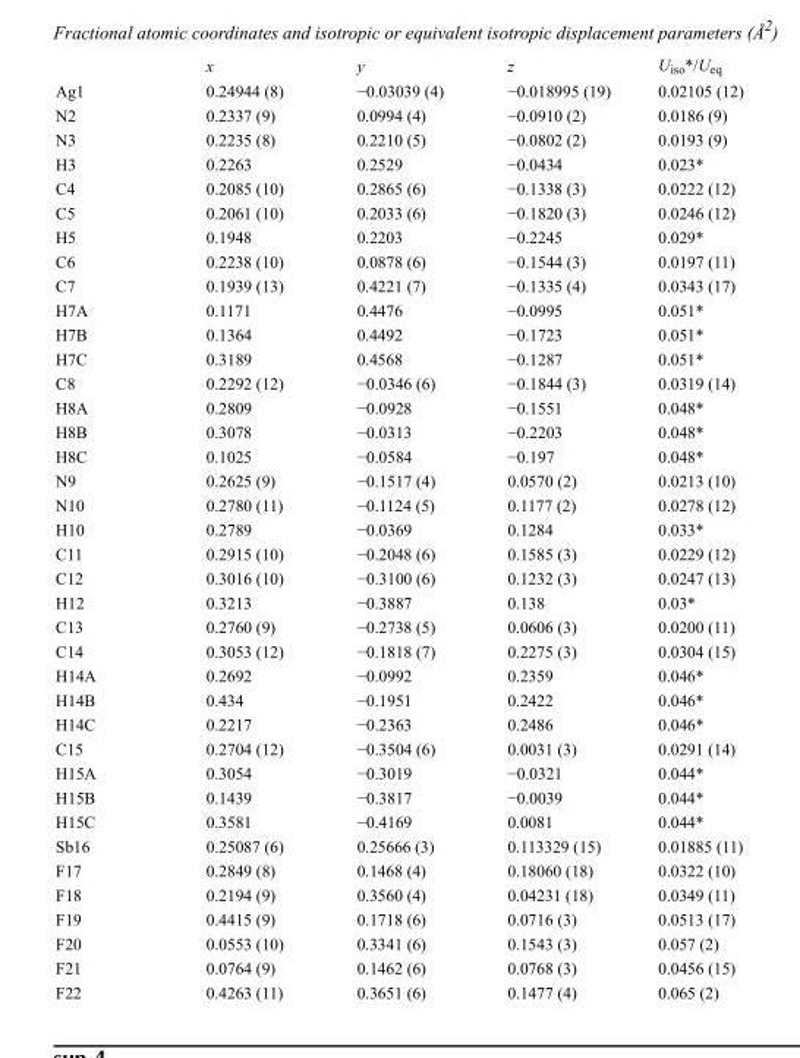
<table><thead><tr><td></td><td>x</td><td>y</td><td>z</td><td>U<sub>iso</sub>*/U<sub>eq</sub></td></tr></thead><tbody><tr><td>Ag1</td><td>0.24944 (8)</td><td>−0.03039 (4)</td><td>−0.018995 (19)</td><td>0.02105 (12)</td></tr><tr><td>N2</td><td>0.2337 (9)</td><td>0.0994 (4)</td><td>−0.0910 (2)</td><td>0.0186 (9)</td></tr><tr><td>N3</td><td>0.2235 (8)</td><td>0.2210 (5)</td><td>−0.0802 (2)</td><td>0.0193 (9)</td></tr><tr><td>H3</td><td>0.2263</td><td>0.2529</td><td>−0.0434</td><td>0.023*</td></tr><tr><td>C4</td><td>0.2085 (10)</td><td>0.2865 (6)</td><td>−0.1338 (3)</td><td>0.0222 (12)</td></tr><tr><td>C5</td><td>0.2061 (10)</td><td>0.2033 (6)</td><td>−0.1820 (3)</td><td>0.0246 (12)</td></tr><tr><td>H5</td><td>0.1948</td><td>0.2203</td><td>−0.2245</td><td>0.029*</td></tr><tr><td>C6</td><td>0.2238 (10)</td><td>0.0878 (6)</td><td>−0.1544 (3)</td><td>0.0197 (11)</td></tr><tr><td>C7</td><td>0.1939 (13)</td><td>0.4221 (7)</td><td>−0.1335 (4)</td><td>0.0343 (17)</td></tr><tr><td>H7A</td><td>0.1171</td><td>0.4476</td><td>−0.0995</td><td>0.051*</td></tr><tr><td>H7B</td><td>0.1364</td><td>0.4492</td><td>−0.1723</td><td>0.051*</td></tr><tr><td>H7C</td><td>0.3189</td><td>0.4568</td><td>−0.1287</td><td>0.051*</td></tr><tr><td>C8</td><td>0.2292 (12)</td><td>−0.0346 (6)</td><td>−0.1844 (3)</td><td>0.0319 (14)</td></tr><tr><td>H8A</td><td>0.2809</td><td>−0.0928</td><td>−0.1551</td><td>0.048*</td></tr><tr><td>H8B</td><td>0.3078</td><td>−0.0313</td><td>−0.2203</td><td>0.048*</td></tr><tr><td>H8C</td><td>0.1025</td><td>−0.0584</td><td>−0.197</td><td>0.048*</td></tr><tr><td>N9</td><td>0.2625 (9)</td><td>−0.1517 (4)</td><td>0.0570 (2)</td><td>0.0213 (10)</td></tr><tr><td>N10</td><td>0.2780 (11)</td><td>−0.1124 (5)</td><td>0.1177 (2)</td><td>0.0278 (12)</td></tr><tr><td>H10</td><td>0.2789</td><td>−0.0369</td><td>0.1284</td><td>0.033*</td></tr><tr><td>C11</td><td>0.2915 (10)</td><td>−0.2048 (6)</td><td>0.1585 (3)</td><td>0.0229 (12)</td></tr><tr><td>C12</td><td>0.3016 (10)</td><td>−0.3100 (6)</td><td>0.1232 (3)</td><td>0.0247 (13)</td></tr><tr><td>H12</td><td>0.3213</td><td>−0.3887</td><td>0.138</td><td>0.03*</td></tr><tr><td>C13</td><td>0.2760 (9)</td><td>−0.2738 (5)</td><td>0.0606 (3)</td><td>0.0200 (11)</td></tr><tr><td>C14</td><td>0.3053 (12)</td><td>−0.1818 (7)</td><td>0.2275 (3)</td><td>0.0304 (15)</td></tr><tr><td>H14A</td><td>0.2692</td><td>−0.0992</td><td>0.2359</td><td>0.046*</td></tr><tr><td>H14B</td><td>0.434</td><td>−0.1951</td><td>0.2422</td><td>0.046*</td></tr><tr><td>H14C</td><td>0.2217</td><td>−0.2363</td><td>0.2486</td><td>0.046*</td></tr><tr><td>C15</td><td>0.2704 (12)</td><td>−0.3504 (6)</td><td>0.0031 (3)</td><td>0.0291 (14)</td></tr><tr><td>H15A</td><td>0.3054</td><td>−0.3019</td><td>−0.0321</td><td>0.044*</td></tr><tr><td>H15B</td><td>0.1439</td><td>−0.3817</td><td>−0.0039</td><td>0.044*</td></tr><tr><td>H15C</td><td>0.3581</td><td>−0.4169</td><td>0.0081</td><td>0.044*</td></tr><tr><td>Sb16</td><td>0.25087 (6)</td><td>0.25666 (3)</td><td>0.113329 (15)</td><td>0.01885 (11)</td></tr><tr><td>F17</td><td>0.2849 (8)</td><td>0.1468 (4)</td><td>0.18060 (18)</td><td>0.0322 (10)</td></tr><tr><td>F18</td><td>0.2194 (9)</td><td>0.3560 (4)</td><td>0.04231 (18)</td><td>0.0349 (11)</td></tr><tr><td>F19</td><td>0.4415 (9)</td><td>0.1718 (6)</td><td>0.0716 (3)</td><td>0.0513 (17)</td></tr><tr><td>F20</td><td>0.0553 (10)</td><td>0.3341 (6)</td><td>0.1543 (3)</td><td>0.057 (2)</td></tr><tr><td>F21</td><td>0.0764 (9)</td><td>0.1462 (6)</td><td>0.0768 (3)</td><td>0.0456 (15)</td></tr><tr><td>F22</td><td>0.4263 (11)</td><td>0.3651 (6)</td><td>0.1477 (4)</td><td>0.065 (2)</td></tr></tbody></table>